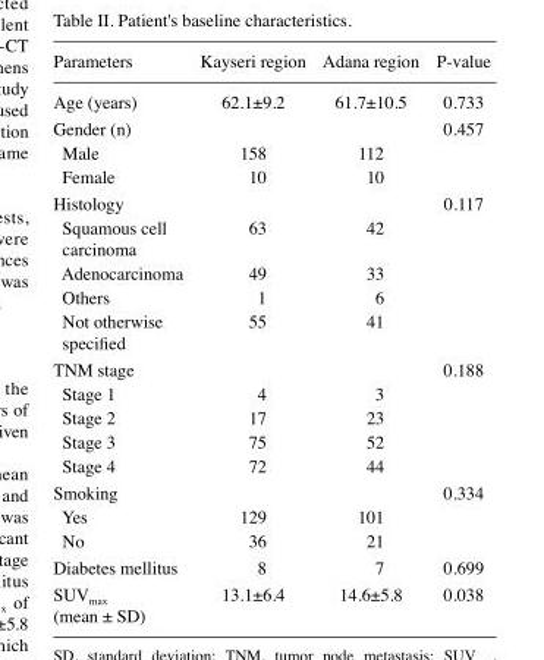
<table><thead><tr><td>Parameters</td><td>Kayseri region</td><td>Adana region</td><td>P-value</td></tr></thead><tbody><tr><td>Age (years)</td><td>62.1±9.2</td><td>61.7±10.5</td><td>0.733</td></tr><tr><td>Gender (n)</td><td></td><td></td><td>0.457</td></tr><tr><td>Male</td><td>158</td><td>112</td><td></td></tr><tr><td>Female</td><td>10</td><td>10</td><td></td></tr><tr><td>Histology</td><td></td><td></td><td>0.117</td></tr><tr><td>Squamous cell carcinoma</td><td>63</td><td>42</td><td></td></tr><tr><td>Adenocarcinoma</td><td>49</td><td>33</td><td></td></tr><tr><td>Others</td><td>1</td><td>6</td><td></td></tr><tr><td>Not otherwise specified</td><td>55</td><td>41</td><td></td></tr><tr><td>TNM stage</td><td></td><td></td><td>0.188</td></tr><tr><td>Stage 1</td><td>4</td><td>3</td><td></td></tr><tr><td>Stage 2</td><td>17</td><td>23</td><td></td></tr><tr><td>Stage 3</td><td>75</td><td>52</td><td></td></tr><tr><td>Stage 4</td><td>72</td><td>44</td><td></td></tr><tr><td>Smoking</td><td></td><td></td><td>0.334</td></tr><tr><td>Yes</td><td>129</td><td>101</td><td></td></tr><tr><td>No</td><td>36</td><td>21</td><td></td></tr><tr><td>Diabetes mellitus</td><td>8</td><td>7</td><td>0.699</td></tr><tr><td>SUVmax</td><td>13.1±6.4</td><td>14.6±5.8</td><td>0.038</td></tr></tbody></table>